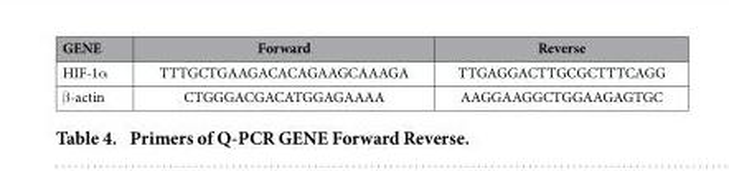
<table><tbody><tr><td>HIF-1α</td><td>TTTGCTGAAGACACAGAAGCAAAGA</td><td>TTGAGGACTTGCGCTTTCAGG</td></tr><tr><td>β -actin</td><td>CTGGGACGACATGGAGAAAA</td><td>AAGGAAGGCTGGAAGAGTGC</td></tr></tbody></table>